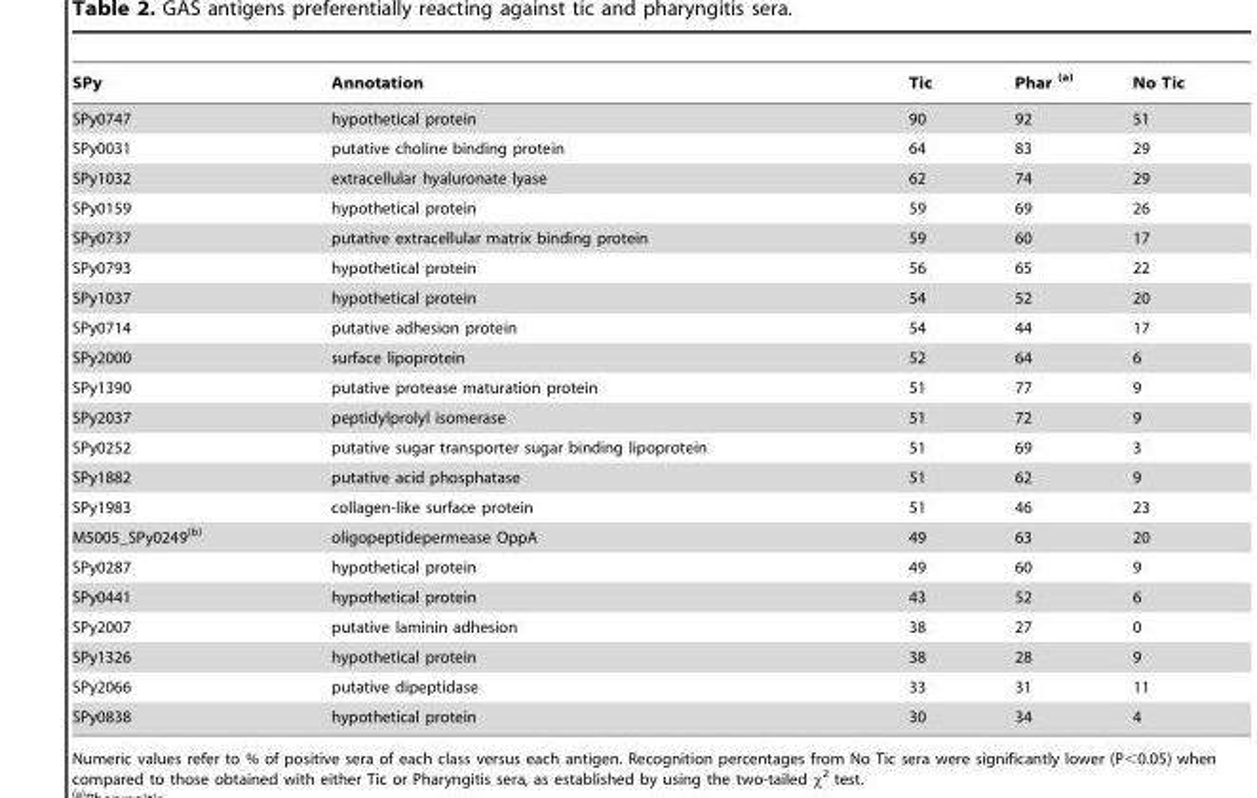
<table><thead><tr><td>SPy</td><td>Annotation</td><td>Tic</td><td>Phar (a)</td><td>No Tic</td></tr></thead><tbody><tr><td>SPy0747</td><td>hypothetical protein</td><td>90</td><td>92</td><td>51</td></tr><tr><td>SPy0031</td><td>putative choline binding protein</td><td>64</td><td>83</td><td>29</td></tr><tr><td>SPy1032</td><td>extracellular hyaluronate lyase</td><td>62</td><td>74</td><td>29</td></tr><tr><td>SPy0159</td><td>hypothetical protein</td><td>59</td><td>69</td><td>26</td></tr><tr><td>SPy0737</td><td>putative extracellular matrix binding protein</td><td>59</td><td>60</td><td>17</td></tr><tr><td>SPy0793</td><td>hypothetical protein</td><td>56</td><td>65</td><td>22</td></tr><tr><td>SPy1037</td><td>hypothetical protein</td><td>54</td><td>52</td><td>20</td></tr><tr><td>SPy0714</td><td>putative adhesion protein</td><td>54</td><td>44</td><td>17</td></tr><tr><td>SPy2000</td><td>surface lipoprotein</td><td>52</td><td>64</td><td>6</td></tr><tr><td>SPy1390</td><td>putative protease maturation protein</td><td>51</td><td>77</td><td>9</td></tr><tr><td>SPy2037</td><td>peptidylprolyl isomerase</td><td>51</td><td>72</td><td>9</td></tr><tr><td>SPy0252</td><td>putative sugar transporter sugar binding lipoprotein</td><td>51</td><td>69</td><td>3</td></tr><tr><td>SPy1882</td><td>putative acid phosphatase</td><td>51</td><td>62</td><td>9</td></tr><tr><td>SPy1983</td><td>collagen-like surface protein</td><td>51</td><td>46</td><td>23</td></tr><tr><td>M5005_SPy0249(b)</td><td>oligopeptidepermease OppA</td><td>49</td><td>63</td><td>20</td></tr><tr><td>SPy0287</td><td>hypothetical protein</td><td>49</td><td>60</td><td>9</td></tr><tr><td>SPy0441</td><td>hypothetical protein</td><td>43</td><td>52</td><td>6</td></tr><tr><td>SPy2007</td><td>putative laminin adhesion</td><td>38</td><td>27</td><td>0</td></tr><tr><td>SPy1326</td><td>hypothetical protein</td><td>38</td><td>28</td><td>9</td></tr><tr><td>SPy2066</td><td>putative dipeptidase</td><td>33</td><td>31</td><td>11</td></tr><tr><td>SPy0838</td><td>hypothetical protein</td><td>30</td><td>34</td><td>4</td></tr></tbody></table>